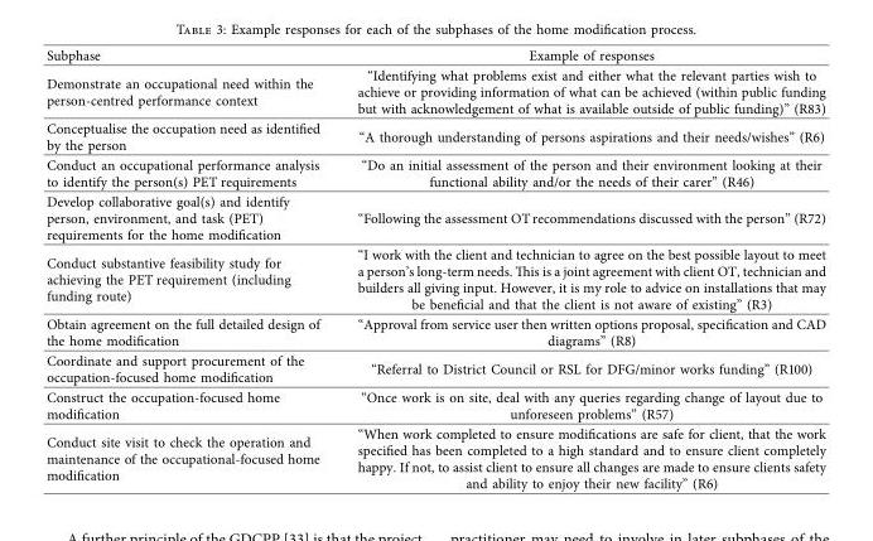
<table><thead><tr><td>Subphase</td><td>Example of responses</td></tr></thead><tbody><tr><td>Demonstrate an occupational need within the person-centred performance context</td><td>“Identifying what problems exist and either what the relevant parties wish to achieve or providing information of what can be achieved (within public funding but with acknowledgement of what is available outside of public funding)” (R83)</td></tr><tr><td>Conceptualise the occupation need as identifed by the person</td><td>“A thorough understanding of persons aspirations and their needs/wishes” (R6)</td></tr><tr><td>Conduct an occupational performance analysis to identify the person(s) PET requirements</td><td>“Do an initial assessment of the person and their environment looking at their functional ability and/or the needs of their carer” (R46)</td></tr><tr><td>Develop collaborative goal(s) and identify person, environment, and task (PET) requirements for the home modifcation</td><td>“Following the assessment OTrecommendations discussed with the person” (R72)</td></tr><tr><td>Conduct substantive feasibility study for achieving the PET requirement (including funding route)</td><td>“I work with the client and technician to agree on the best possible layout to meet a person’s long-term needs. Tis is a joint agreement with client OT, technician and builders all giving input. However, it is my role to advice on installations that may be benefcial and that the client is not aware of existing” (R3)</td></tr><tr><td>Obtain agreement on the full detailed design of the home modifcation</td><td>“Approval from service user then written options proposal, specifcation and CAD diagrams” (R8)</td></tr><tr><td>Coordinate and support procurement of the occupation-focused home modifcation</td><td>“Referral to District Council or RSL for DFG/minor works funding” (R100)</td></tr><tr><td>Construct the occupation-focused home modifcation</td><td>“Once work is on site, deal with any queries regarding change of layout due to unforeseen problems” (R57)</td></tr><tr><td>Conduct site visit to check the operation and maintenance of the occupational-focused home modifcation</td><td>“When work completed to ensure modifcations are safe for client, that the work specifed has been completed to a high standard and to ensure client completely happy. If not, to assist client to ensure all changes are made to ensure clients safety and ability to enjoy their new facility” (R6)</td></tr></tbody></table>